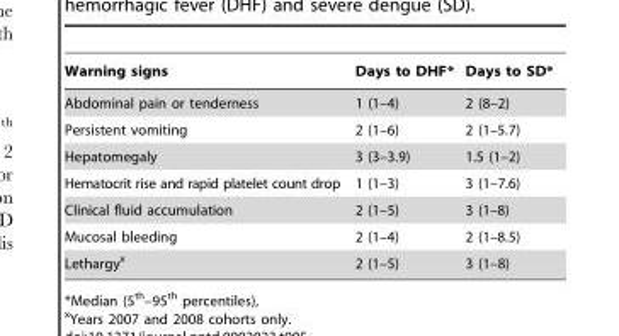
<table><thead><tr><td>Warning signs</td><td>Days to DHF*</td><td>Days to SD*</td></tr></thead><tbody><tr><td>Abdominal pain or tenderness</td><td>1 (1–4)</td><td>2 (8–2)</td></tr><tr><td>Persistent vomiting</td><td>2 (1–6)</td><td>2 (1–5.7)</td></tr><tr><td>Hepatomegaly</td><td>3 (3–3.9)</td><td>1.5 (1–2)</td></tr><tr><td>Hematocrit rise and rapid platelet count drop</td><td>1 (1–3)</td><td>3 (1–7.6)</td></tr><tr><td>Clinical fluid accumulation</td><td>2 (1–5)</td><td>3 (1–8)</td></tr><tr><td>Mucosal bleeding</td><td>2 (1–4)</td><td>2 (1–8.5)</td></tr><tr><td>Lethargy<sup>x</sup></td><td>2 (1–5)</td><td>3 (1–8)</td></tr></tbody></table>